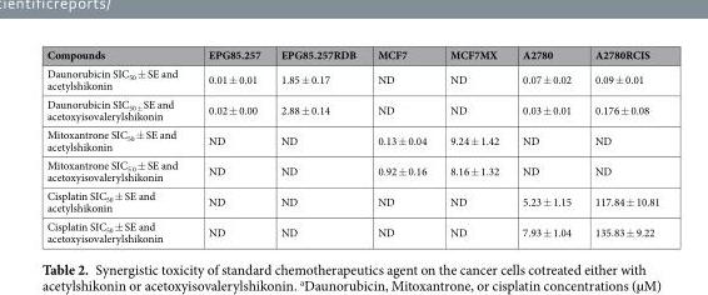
<table><thead><tr><td>Compounds</td><td>EPG85.257</td><td>EPG85.257RDB</td><td>MCF7</td><td>MCF7MX</td><td>A2780</td><td>A2780RCIS</td></tr></thead><tbody><tr><td>Daunorubicin SIC<sub>50</sub> ± SE and acetylshikonin</td><td>0.01 ± 0.01</td><td>1.85 ± 0.17</td><td>ND</td><td>ND</td><td>0.07 ± 0.02</td><td>0.09 ± 0.01</td></tr><tr><td>Daunorubicin SIC<sub>50 ±</sub> SE and acetoxyisovalerylshikonin</td><td>0.02 ± 0.00</td><td>2.88 ± 0.14</td><td>ND</td><td>ND</td><td>0.03 ± 0.01</td><td>0.176 ± 0.08</td></tr><tr><td>Mitoxantrone SIC<sub>50</sub> ± SE and acetylshikonin</td><td>ND</td><td>ND</td><td>0.13 ± 0.04</td><td>9.24 ± 1.42</td><td>ND</td><td>ND</td></tr><tr><td>Mitoxantrone SIC<sub>5 0</sub> ± SE and acetoxyisovalerylshikonin</td><td>ND</td><td>ND</td><td>0.92 ± 0.16</td><td>8.16 ± 1.32</td><td>ND</td><td>ND</td></tr><tr><td>Cisplatin SIC<sub>50</sub> ± SE and acetylshikonin</td><td>ND</td><td>ND</td><td>ND</td><td>ND</td><td>5.23 ± 1.15</td><td>117.84 ± 10.81</td></tr><tr><td>Cisplatin SIC<sub>50</sub> ± SE and acetoxyisovalerylshikonin</td><td>ND</td><td>ND</td><td>ND</td><td>ND</td><td>7.93 ± 1.04</td><td>135.83 ± 9.22</td></tr></tbody></table>